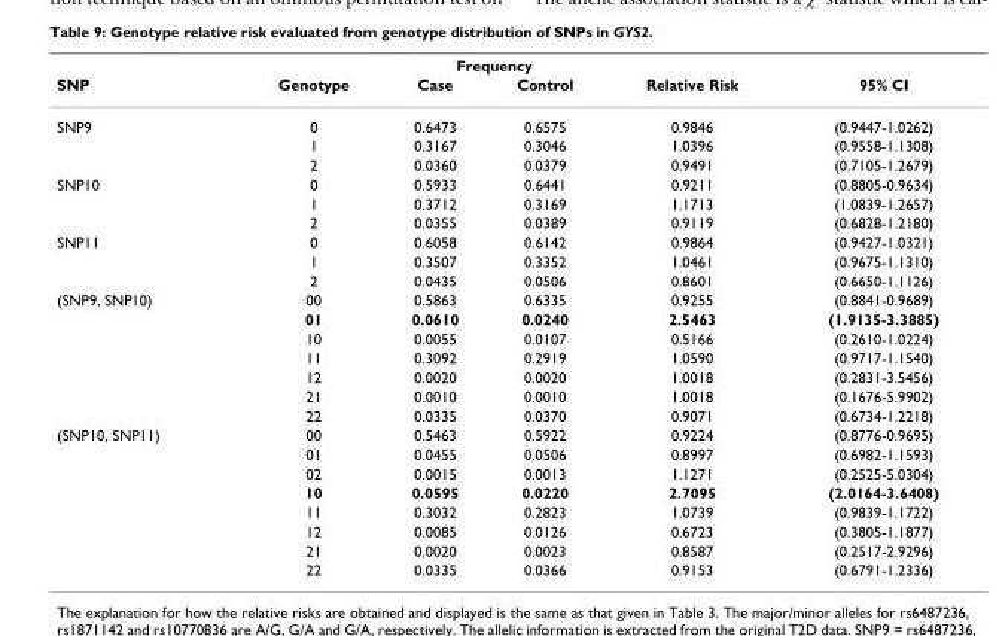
<table><thead><tr><td rowspan="2">SNP</td><td rowspan="2">Genotype</td><td colspan="2">Frequency</td><td rowspan="2">Relative Risk</td><td rowspan="2">95% CI</td></tr><tr><td>Case</td><td>Control</td></tr></thead><tbody><tr><td rowspan="3">SNP9</td><td>0</td><td>0.6473</td><td>0.6575</td><td>0.9846</td><td>(0.9447-1.0262)</td></tr><tr><td>1</td><td>0.3167</td><td>0.3046</td><td>1.0396</td><td>(0.9558-1.1308)</td></tr><tr><td>2</td><td>0.0360</td><td>0.0379</td><td>0.9491</td><td>(0.7105-1.2679)</td></tr><tr><td rowspan="3">SNP10</td><td>0</td><td>0.5933</td><td>0.6441</td><td>0.9211</td><td>(0.8805-0.9634)</td></tr><tr><td>1</td><td>0.3712</td><td>0.3169</td><td>1.1713</td><td>(1.0839-1.2657)</td></tr><tr><td>2</td><td>0.0355</td><td>0.0389</td><td>0.9119</td><td>(0.6828-1.2180)</td></tr><tr><td rowspan="3">SNP11</td><td>0</td><td>0.6058</td><td>0.6142</td><td>0.9864</td><td>(0.9427-1.0321)</td></tr><tr><td>1</td><td>0.3507</td><td>0.3352</td><td>1.0461</td><td>(0.9675-1.1310)</td></tr><tr><td>2</td><td>0.0435</td><td>0.0506</td><td>0.8601</td><td>(0.6650-1.1126)</td></tr><tr><td rowspan="7">(SNP9, SNP10)</td><td>00</td><td>0.5863</td><td>0.6335</td><td>0.9255</td><td>(0.8841-0.9689)</td></tr><tr><td>01</td><td>0.0610</td><td>0.0240</td><td>2.5463</td><td>(1.9135-3.3885)</td></tr><tr><td>10</td><td>0.0055</td><td>0.0107</td><td>0.5166</td><td>(0.2610-1.0224)</td></tr><tr><td>11</td><td>0.3092</td><td>0.2919</td><td>1.0590</td><td>(0.9717-1.1540)</td></tr><tr><td>12</td><td>0.0020</td><td>0.0020</td><td>1.0018</td><td>(0.2831-3.5456)</td></tr><tr><td>21</td><td>0.0010</td><td>0.0010</td><td>1.0018</td><td>(0.1676-5.9902)</td></tr><tr><td>22</td><td>0.0335</td><td>0.0370</td><td>0.9071</td><td>(0.6734-1.2218)</td></tr><tr><td rowspan="8">(SNP10, SNP11)</td><td>00</td><td>0.5463</td><td>0.5922</td><td>0.9224</td><td>(0.8776-0.9695)</td></tr><tr><td>01</td><td>0.0455</td><td>0.0506</td><td>0.8997</td><td>(0.6982-1.1593)</td></tr><tr><td>02</td><td>0.0015</td><td>0.0013</td><td>1.1271</td><td>(0.2525-5.0304)</td></tr><tr><td>10</td><td>0.0595</td><td>0.0220</td><td>2.7095</td><td>(2.0164-3.6408)</td></tr><tr><td>11</td><td>0.3032</td><td>0.2823</td><td>1.0739</td><td>(0.9839-1.1722)</td></tr><tr><td>12</td><td>0.0085</td><td>0.0126</td><td>0.6723</td><td>(0.3805-1.1877)</td></tr><tr><td>21</td><td>0.0020</td><td>0.0023</td><td>0.8587</td><td>(0.2517-2.9296)</td></tr><tr><td>22</td><td>0.0335</td><td>0.0366</td><td>0.9153</td><td>(0.6791-1.2336)</td></tr></tbody></table>